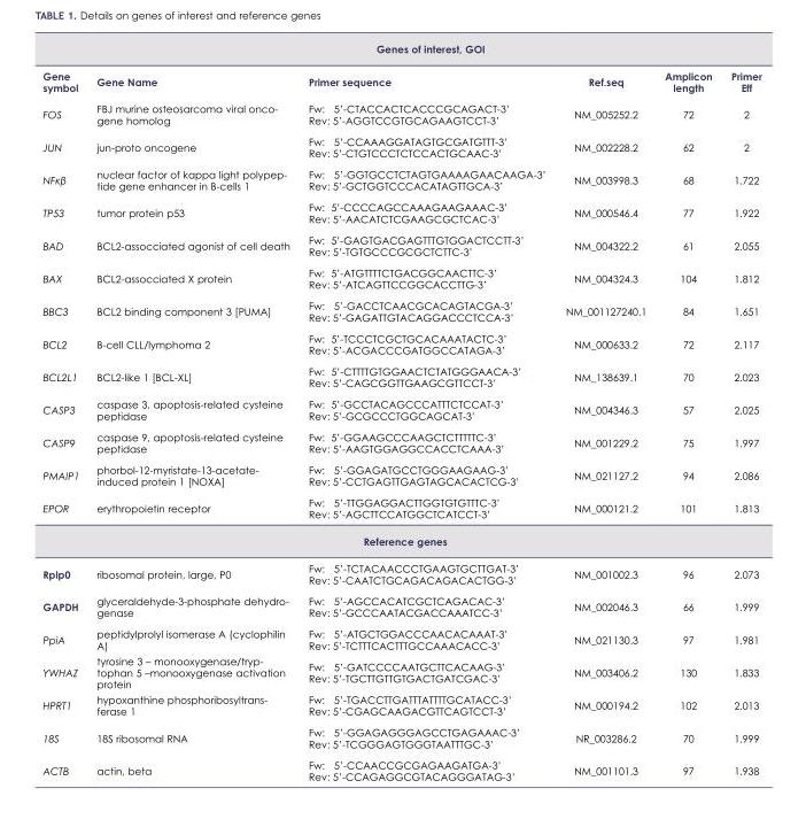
<table><tbody><tr><td colspan="6">Genes of interest, GOI</td></tr><tr><td>Gene symbol</td><td>Gene Name</td><td>Primer sequence</td><td>Ref.seq</td><td>Amplicon length</td><td>Primer Eff</td></tr><tr><td>FOS</td><td>FBJ murine osteosarcoma viral onco- gene homolog</td><td>Fw: 5’-CTACCACTCACCCGCAGACT-3’ Rev: 5’-AGGTCCGTGCAGAAGTCCT-3’</td><td>NM_005252.2</td><td>72</td><td>2</td></tr><tr><td>JUN</td><td>jun-proto oncogene</td><td>Fw: 5’-CCAAAGGATAGTGCGATGTTT-3’ Rev: 5’-CTGTCCCTCTCCACTGCAAC-3’</td><td>NM_002228.2</td><td>62</td><td>2</td></tr><tr><td>NFκβ</td><td>nuclear factor of kappa light polypep- tide gene enhancer in B-cells 1</td><td>Fw: 5’-GGTGCCTCTAGTGAAAAGAACAAGA-3’ Rev: 5’-GCTGGTCCCACATAGTTGCA-3’</td><td>NM_003998.3</td><td>68</td><td>1.722</td></tr><tr><td>TP53</td><td>tumor protein p53</td><td>Fw: 5’-CCCCAGCCAAAGAAGAAAC-3’ Rev: 5’-AACATCTCGAAGCGCTCAC-3’</td><td>NM_000546.4</td><td>77</td><td>1.922</td></tr><tr><td>BAD</td><td>BCL2-assocciated agonist of cell death</td><td>Fw: 5’-GAGTGACGAGTTTGTGGACTCCTT-3’ Rev: 5’-TGTGCCCGCGCTCTTC-3’</td><td>NM_004322.2</td><td>61</td><td>2.055</td></tr><tr><td>BAX</td><td>BCL2-assocciated X protein</td><td>Fw: 5’-ATGTTTTCTGACGGCAACTTC-3’ Rev: 5’-ATCAGTTCCGGCACCTTG-3’</td><td>NM_004324.3</td><td>104</td><td>1.812</td></tr><tr><td>BBC3</td><td>BCL2 binding component 3 [PUMA]</td><td>Fw: 5’-GACCTCAACGCACAGTACGA-3’ Rev: 5’-GAGATTGTACAGGACCCTCCA-3’</td><td>NM_001127240.1</td><td>84</td><td>1.651</td></tr><tr><td>BCL2</td><td>B-cell CLL/lymphoma 2</td><td>Fw: 5’-TCCCTCGCTGCACAAATACTC-3’ Rev: 5’-ACGACCCGATGGCCATAGA-3’</td><td>NM_000633.2</td><td>72</td><td>2.117</td></tr><tr><td>BCL2L1</td><td>BCL2-like 1 [BCL-XL]</td><td>Fw: 5’-CTTTTGTGGAACTCTATGGGAACA-3’ Rev: 5’-CAGCGGTTGAAGCGTTCCT-3’</td><td>NM_138639.1</td><td>70</td><td>2.023</td></tr><tr><td>CASP3</td><td>caspase 3, apoptosis-related cysteine peptidase</td><td>Fw: 5’-GCCTACAGCCCATTTCTCCAT-3’ Rev: 5’-GCGCCCTGGCAGCAT-3’</td><td>NM_004346.3</td><td>57</td><td>2.025</td></tr><tr><td>CASP9</td><td>caspase 9, apoptosis-related cysteine peptidase</td><td>Fw: 5’-GGAAGCCCAAGCTCTTTTTC-3’ Rev: 5’-AAGTGGAGGCCACCTCAAA-3’</td><td>NM_001229.2</td><td>75</td><td>1.997</td></tr><tr><td>PMAIP1</td><td>phorbol-12-myristate-13-acetate- induced protein 1 [NOXA]</td><td>Fw: 5’-GGAGATGCCTGGGAAGAAG-3’ Rev: 5’-CCTGAGTTGAGTAGCACACTCG-3’</td><td>NM_021127.2</td><td>94</td><td>2.086</td></tr><tr><td>EPOR</td><td>erythropoietin receptor</td><td>Fw: 5’-TTGGAGGACTTGGTGTGTTTC-3’ Rev: 5’-AGCTTCCATGGCTCATCCT-3’</td><td>NM_000121.2</td><td>101</td><td>1.813</td></tr><tr><td colspan="6">Reference genes</td></tr><tr><td>Rplp0</td><td>ribosomal protein, large, P0</td><td>Fw: 5’-TCTACAACCCTGAAGTGCTTGAT-3’ Rev: 5’-CAATCTGCAGACAGACACTGG-3’</td><td>NM_001002.3</td><td>96</td><td>2.073</td></tr><tr><td>GAPDH</td><td>glyceraldehyde-3-phosphate dehydro- genase</td><td>Fw: 5’-AGCCACATCGCTCAGACAC-3’ Rev: 5’-GCCCAATACGACCAAATCC-3’</td><td>NM_002046.3</td><td>66</td><td>1.999</td></tr><tr><td>PpiA</td><td>peptidylprolyl isomerase A (cyclophilin A)</td><td>Fw: 5’-ATGCTGGACCCAACACAAAT-3’ Rev: 5’-TCTTTCACTTTGCCAAACACC-3’</td><td>NM_021130.3</td><td>97</td><td>1.981</td></tr><tr><td>YWHAZ</td><td>tyrosine 3 – monooxygenase/tryp- tophan 5 –monooxygenase activation protein</td><td>Fw: 5’-GATCCCCAATGCTTCACAAG-3’ Rev: 5’-TGCTTGTTGTGACTGATCGAC-3’</td><td>NM_003406.2</td><td>130</td><td>1.833</td></tr><tr><td>HPRT1</td><td>hypoxanthine phosphoribosyltrans- ferase 1</td><td>Fw: 5’-TGACCTTGATTTATTTTGCATACC-3’ Rev: 5’-CGAGCAAGACGTTCAGTCCT-3’</td><td>NM_000194.2</td><td>102</td><td>2.013</td></tr><tr><td>18S</td><td>18S ribosomal RNA</td><td>Fw: 5’-GGAGAGGGAGCCTGAGAAAC-3’ Rev: 5’-TCGGGAGTGGGTAATTTGC-3’</td><td>NR_003286.2</td><td>70</td><td>1.999</td></tr><tr><td>ACTB</td><td>actin, beta</td><td>Fw: 5’-CCAACCGCGAGAAGATGA-3’ Rev: 5’-CCAGAGGCGTACAGGGATAG-3’</td><td>NM_001101.3</td><td>97</td><td>1.938</td></tr></tbody></table>